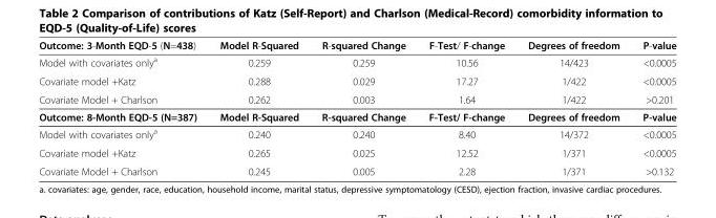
<table><thead><tr><td>Outcome: 3-Month EQD-5 (N=438)</td><td>Model R-Squared</td><td>R-squared Change</td><td>F-Test/ F-change</td><td>Degrees of freedom</td><td>P-value</td></tr></thead><tbody><tr><td>Model with covariates only<sup>a</sup></td><td>0.259</td><td>0.259</td><td>10.56</td><td>14/423</td><td>&lt;0.0005</td></tr><tr><td>Covariate model +Katz</td><td>0.288</td><td>0.029</td><td>17.27</td><td>1/422</td><td>&lt;0.0005</td></tr><tr><td>Covariate Model + Charlson</td><td>0.262</td><td>0.003</td><td>1.64</td><td>1/422</td><td>&gt;0.201</td></tr><tr><td>Outcome: 8-Month EQD-5 (N=387)</td><td>Model R-Squared</td><td>R-squared Change</td><td>F-Test/ F-change</td><td>Degrees of freedom</td><td>P-value</td></tr><tr><td>Model with covariates only<sup>a</sup></td><td>0.240</td><td>0.240</td><td>8.40</td><td>14/372</td><td>&lt;0.0005</td></tr><tr><td>Covariate model +Katz</td><td>0.265</td><td>0.025</td><td>12.52</td><td>1/371</td><td>&lt;0.0005</td></tr><tr><td>Covariate Model + Charlson</td><td>0.245</td><td>0.005</td><td>2.28</td><td>1/371</td><td>&gt;0.132</td></tr></tbody></table>